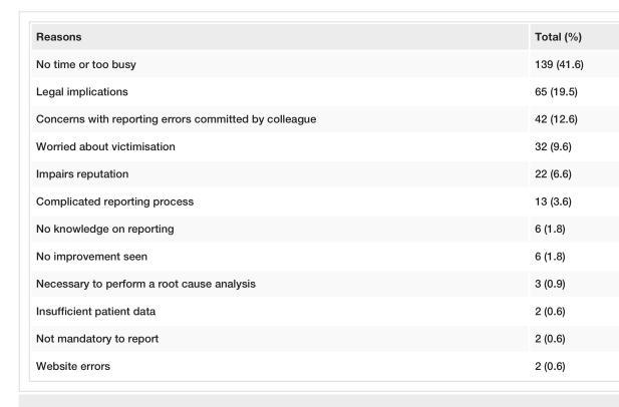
<table><tbody><tr><td>Reasons</td><td>Total (%)</td></tr><tr><td>No time or too busy</td><td>139 (41.6)</td></tr><tr><td>Legal implications</td><td>65 (19.5)</td></tr><tr><td>Concerns with reporting errors committed by colleague</td><td>42 (12.6)</td></tr><tr><td>Worried about victimisation</td><td>32 (9.6)</td></tr><tr><td>Impairs reputation</td><td>22 (6.6)</td></tr><tr><td>Complicated reporting process</td><td>13 (3.6)</td></tr><tr><td>No knowledge on reporting</td><td>6 (1.8)</td></tr><tr><td>No improvement seen</td><td>6 (1.8)</td></tr><tr><td>Necessary to perform a root cause analysis</td><td>3 (0.9)</td></tr><tr><td>Insufficient patient data</td><td>2 (0.6)</td></tr><tr><td>Not mandatory to report</td><td>2 (0.6)</td></tr><tr><td>Website errors</td><td>2 (0.6)</td></tr></tbody></table>